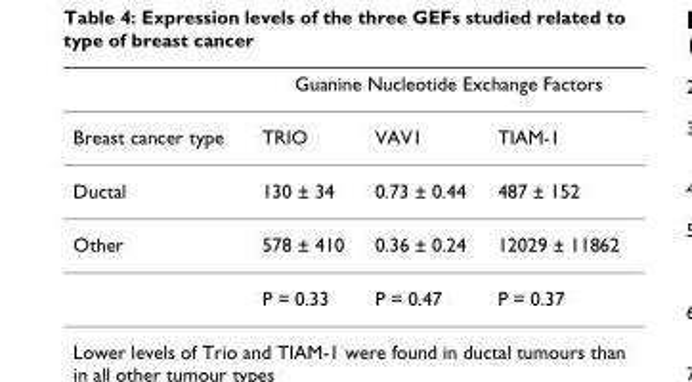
<table><thead><tr><td rowspan="2">Breast cancer type</td><td colspan="3">Guanine Nucleotide Exchange Factors</td></tr><tr><td>TRIO</td><td>VAV1</td><td>TIAM-1</td></tr></thead><tbody><tr><td>Ductal</td><td>130 ± 34</td><td>0.73 ± 0.44</td><td>487 ± 152</td></tr><tr><td rowspan="2">Other</td><td>578 ± 410</td><td>0.36 ± 0.24</td><td>12029 ± 11862</td></tr><tr><td>P = 0.33</td><td>P = 0.47</td><td>P = 0.37</td></tr></tbody></table>